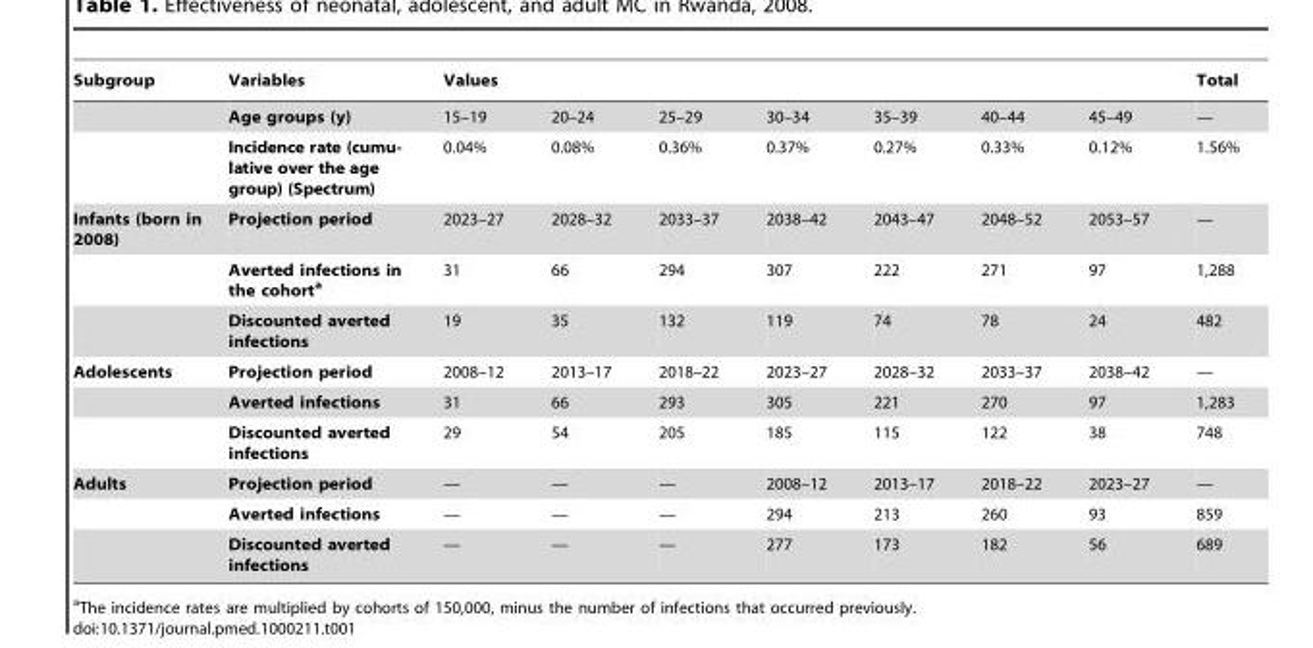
<table><thead><tr><td rowspan="2">Subgroup</td><td rowspan="2">Variables Age groups (y)</td><td colspan="7">Values</td><td rowspan="2">Total —</td></tr><tr><td>15–19</td><td>20–24</td><td>25–29</td><td>30–34</td><td>35–39</td><td>40–44</td><td>45–49</td></tr></thead><tbody><tr><td></td><td>Incidence rate (cumu- lative over the age group) (Spectrum)</td><td>0.04%</td><td>0.08%</td><td>0.36%</td><td>0.37%</td><td>0.27%</td><td>0.33%</td><td>0.12%</td><td>1.56%</td></tr><tr><td rowspan="3">Infants (born in 2008)</td><td>Projection period</td><td>2023–27</td><td>2028–32</td><td>2033–37</td><td>2038–42</td><td>2043–47</td><td>2048–52</td><td>2053–57</td><td>—</td></tr><tr><td>Averted infections in the cohorta</td><td>31</td><td>66</td><td>294</td><td>307</td><td>222</td><td>271</td><td>97</td><td>1,288</td></tr><tr><td>Discounted averted infections</td><td>19</td><td>35</td><td>132</td><td>119</td><td>74</td><td>78</td><td>24</td><td>482</td></tr><tr><td rowspan="3">Adolescents</td><td>Projection period</td><td>2008–12</td><td>2013–17</td><td>2018–22</td><td>2023–27</td><td>2028–32</td><td>2033–37</td><td>2038–42</td><td>—</td></tr><tr><td>Averted infections</td><td>31</td><td>66</td><td>293</td><td>305</td><td>221</td><td>270</td><td>97</td><td>1,283</td></tr><tr><td>Discounted averted infections</td><td>29</td><td>54</td><td>205</td><td>185</td><td>115</td><td>122</td><td>38</td><td>748</td></tr><tr><td rowspan="3">Adults</td><td>Projection period</td><td>—</td><td>—</td><td>—</td><td>2008–12</td><td>2013–17</td><td>2018–22</td><td>2023–27</td><td>—</td></tr><tr><td>Averted infections</td><td>—</td><td>—</td><td>—</td><td>294</td><td>213</td><td>260</td><td>93</td><td>859</td></tr><tr><td>Discounted averted infections</td><td>—</td><td>—</td><td>—</td><td>277</td><td>173</td><td>182</td><td>56</td><td>689</td></tr></tbody></table>